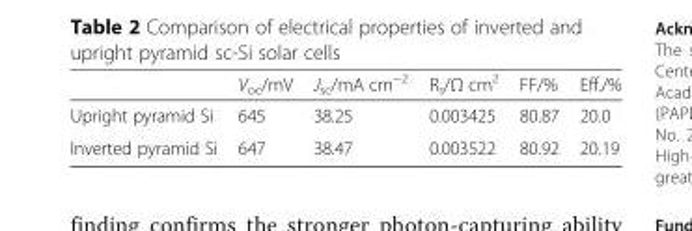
<table><thead><tr><td></td><td>V<sub>oc</sub>/mV</td><td>J<sub>sc</sub>/mA cm<sup>−2</sup></td><td>R<sub>s</sub>/Ω cm<sup>2</sup></td><td>FF/%</td><td>Eff./%</td></tr></thead><tbody><tr><td>Upright pyramid Si</td><td>645</td><td>38.25</td><td>0.003425</td><td>80.87</td><td>20.0</td></tr><tr><td>Inverted pyramid Si</td><td>647</td><td>38.47</td><td>0.003522</td><td>80.92</td><td>20.19</td></tr></tbody></table>